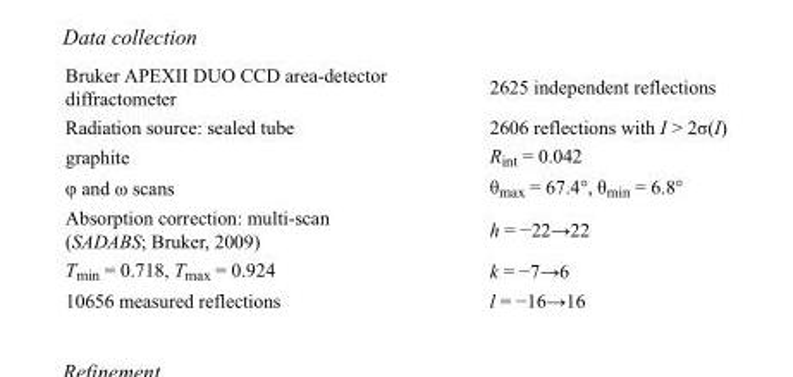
<table><tbody><tr><td>Bruker APEXII DUO CCD area-detector diffractometer</td><td>2625 independent reflections</td></tr><tr><td>Radiation source: sealed tube</td><td>2606 reflections with I &gt; 2σ(I)</td></tr><tr><td>graphite</td><td>R<sub>int</sub> = 0.042</td></tr><tr><td>φ and ω scans</td><td>θ<sub>max</sub> = 67.4°, θ<sub>min</sub> = 6.8°</td></tr><tr><td>Absorption correction: multi-scan (SADABS; Bruker, 2009)</td><td>h = −22→22</td></tr><tr><td>T<sub>min</sub> = 0.718, T<sub>max</sub> = 0.924</td><td>k = −7→6</td></tr><tr><td>10656 measured reflections</td><td>l = −16→16</td></tr></tbody></table>